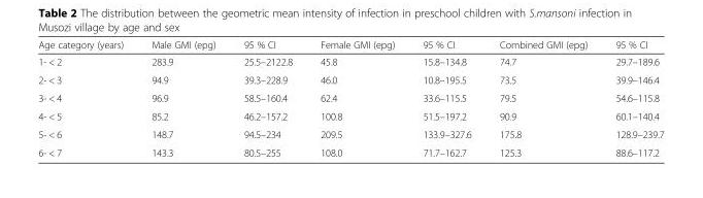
<table><thead><tr><td>Age category (years)</td><td>Male GMI (epg)</td><td>95 % CI</td><td>Female GMI (epg)</td><td>95 % CI</td><td>Combined GMI (epg)</td><td>95 % CI</td></tr></thead><tbody><tr><td>1- &lt; 2</td><td>283.9</td><td>25.5–2122.8</td><td>45.8</td><td>15.8–134.8</td><td>74.7</td><td>29.7–189.6</td></tr><tr><td>2- &lt; 3</td><td>94.9</td><td>39.3–228.9</td><td>46.0</td><td>10.8–195.5</td><td>73.5</td><td>39.9–146.4</td></tr><tr><td>3- &lt; 4</td><td>96.9</td><td>58.5–160.4</td><td>62.4</td><td>33.6–115.5</td><td>79.5</td><td>54.6–115.8</td></tr><tr><td>4- &lt; 5</td><td>85.2</td><td>46.2–157.2</td><td>100.8</td><td>51.5–197.2</td><td>90.9</td><td>60.1–140.4</td></tr><tr><td>5- &lt; 6</td><td>148.7</td><td>94.5–234</td><td>209.5</td><td>133.9–327.6</td><td>175.8</td><td>128.9–239.7</td></tr><tr><td>6- &lt; 7</td><td>143.3</td><td>80.5–255</td><td>108.0</td><td>71.7–162.7</td><td>125.3</td><td>88.6–117.2</td></tr></tbody></table>